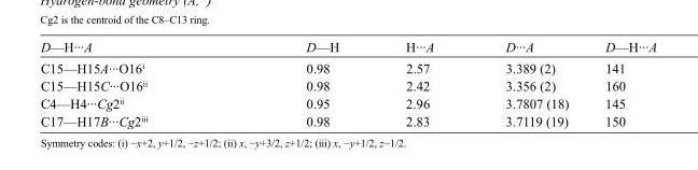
<table><tbody><tr><td>D—H···A</td><td>D—H</td><td>H···A</td><td>D···A</td><td>D—H···A</td></tr><tr><td>C15—H15A···O16<sup>i</sup></td><td>0.98</td><td>2.57</td><td>3.389 (2)</td><td>141</td></tr><tr><td>C15—H15C···O16<sup>ii</sup></td><td>0.98</td><td>2.42</td><td>3.356 (2)</td><td>160</td></tr><tr><td>C4—H4···Cg2<sup>ii</sup></td><td>0.95</td><td>2.96</td><td>3.7807 (18)</td><td>145</td></tr><tr><td>C17—H17B···Cg2<sup>iii</sup></td><td>0.98</td><td>2.83</td><td>3.7119 (19)</td><td>150</td></tr></tbody></table>